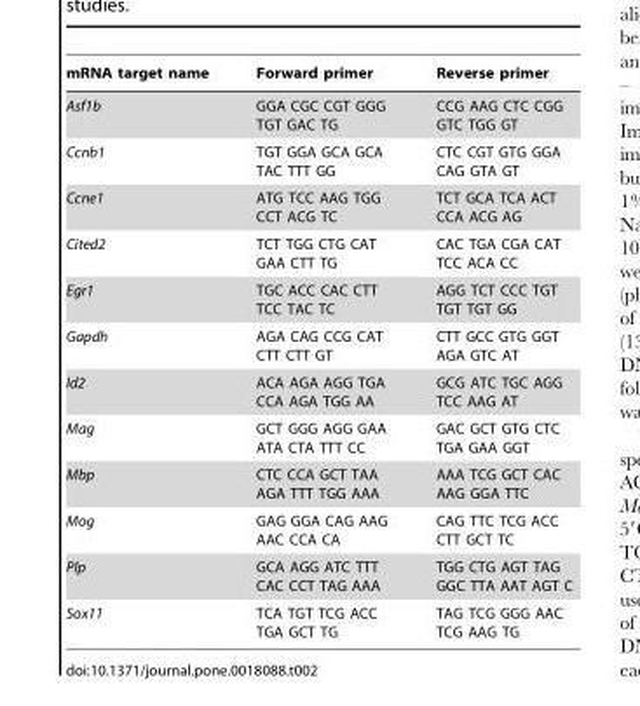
<table><thead><tr><td>mRNA target name</td><td>Forward primer</td><td>Reverse primer</td></tr></thead><tbody><tr><td>Asf1b</td><td>GGA CGC CGT GGG TGT GAC TG</td><td>CCG AAG CTC CGG GTC TGG GT</td></tr><tr><td>Ccnb1</td><td>TGT GGA GCA GCA TAC TTT GG</td><td>CTC CGT GTG GGA CAG GTA GT</td></tr><tr><td>Ccne1</td><td>ATG TCC AAG TGG CCT ACG TC</td><td>TCT GCA TCA ACT CCA ACG AG</td></tr><tr><td>Cited2</td><td>TCT TGG CTG CAT GAA CTT TG</td><td>CAC TGA CGA CAT TCC ACA CC</td></tr><tr><td>Egr1</td><td>TGC ACC CAC CTT TCC TAC TC</td><td>AGG TCT CCC TGT TGT TGT GG</td></tr><tr><td>Gapdh</td><td>AGA CAG CCG CAT CTT CTT GT</td><td>CTT GCC GTG GGT AGA GTC AT</td></tr><tr><td>Id2</td><td>ACA AGA AGG TGA CCA AGA TGG AA</td><td>GCG ATC TGC AGG TCC AAG AT</td></tr><tr><td>Mag</td><td>GCT GGG AGG GAA ATA CTA TTT CC</td><td>GAC GCT GTG CTC TGA GAA GGT</td></tr><tr><td>Mbp</td><td>CTC CCA GCT TAA AGA TTT TGG AAA</td><td>AAA TCG GCT CAC AAG GGA TTC</td></tr><tr><td>Mog</td><td>GAG GGA CAG AAG AAC CCA CA</td><td>CAG TTC TCG ACC CTT GCT TC</td></tr><tr><td>Plp</td><td>GCA AGG ATC TTT CAC CCT TAG AAA</td><td>TGG CTG AGT TAG GGC TTA AAT AGT C</td></tr><tr><td>Sox11</td><td>TCA TGT TCG ACC TGA GCT TG</td><td>TAG TCG GGG AAC TCG AAG TG</td></tr></tbody></table>